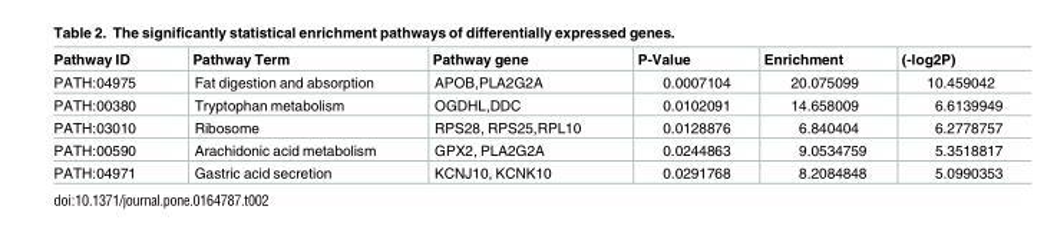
<table><thead><tr><td>Pathway ID</td><td>Pathway Term</td><td>Pathway gene</td><td>P-Value</td><td>Enrichment</td><td>(-log2P)</td></tr></thead><tbody><tr><td>PATH:04975</td><td>Fat digestion and absorption</td><td>APOB,PLA2G2A</td><td>0.0007104</td><td>20.075099</td><td>10.459042</td></tr><tr><td>PATH:00380</td><td>Tryptophan metabolism</td><td>OGDHL,DDC</td><td>0.0102091</td><td>14.658009</td><td>6.6139949</td></tr><tr><td>PATH:03010</td><td>Ribosome</td><td>RPS28, RPS25,RPL10</td><td>0.0128876</td><td>6.840404</td><td>6.2778757</td></tr><tr><td>PATH:00590</td><td>Arachidonic acid metabolism</td><td>GPX2, PLA2G2A</td><td>0.0244863</td><td>9.0534759</td><td>5.3518817</td></tr><tr><td>PATH:04971</td><td>Gastric acid secretion</td><td>KCNJ10, KCNK10</td><td>0.0291768</td><td>8.2084848</td><td>5.0990353</td></tr></tbody></table>